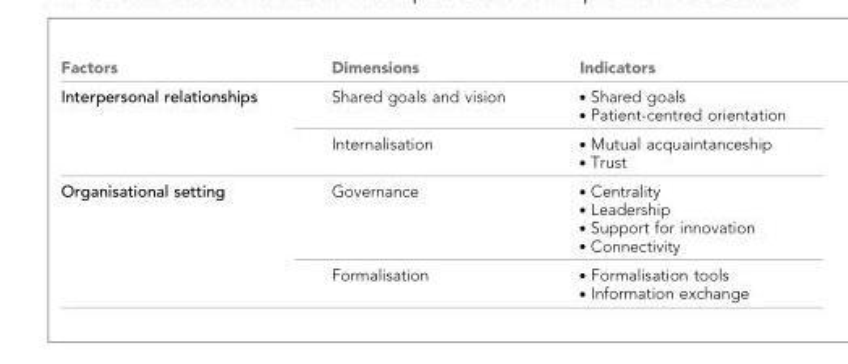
<table><thead><tr><td>Factors</td><td>Dimensions</td><td>Indicators</td></tr></thead><tbody><tr><td rowspan="2">Interpersonal relationships</td><td>Shared goals and vision</td><td>. Shared goals . Patient-centred orientation</td></tr><tr><td>Internalisation</td><td>. Mutual acquaintanceship . Trust</td></tr><tr><td rowspan="2">Organisational setting</td><td>Governance</td><td>. Centrality . Leadership . Support for innovation . Connectivity</td></tr><tr><td>Formalisation</td><td>. Formalisation tools . Information exchange</td></tr></tbody></table>